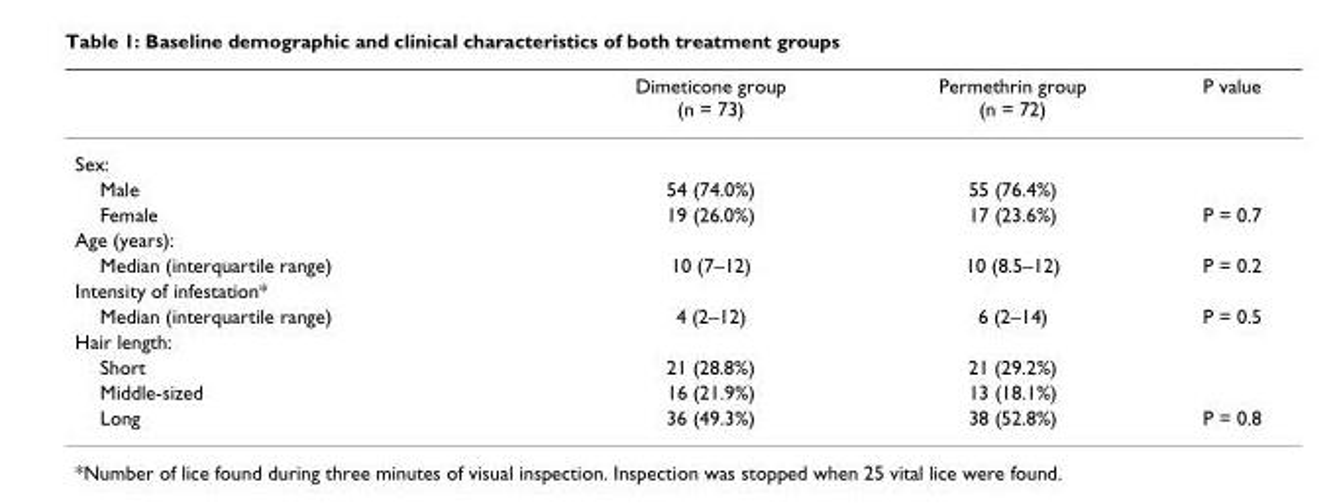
<table><thead><tr><td></td><td>Dimeticone group (n = 73)</td><td>Permethrin group (n = 72)</td><td>P value</td></tr></thead><tbody><tr><td colspan="4">Sex:</td></tr><tr><td>Male</td><td>54 (74.0%)</td><td>55 (76.4%)</td><td></td></tr><tr><td>Female</td><td>19 (26.0%)</td><td>17 (23.6%)</td><td>P = 0.7</td></tr><tr><td colspan="4">Age (years):</td></tr><tr><td>Median (interquartile range)</td><td>10 (7–12)</td><td>10 (8.5–12)</td><td>P = 0.2</td></tr><tr><td colspan="4">Intensity of infestation*</td></tr><tr><td>Median (interquartile range)</td><td>4 (2–12)</td><td>6 (2–14)</td><td>P = 0.5</td></tr><tr><td colspan="4">Hair length:</td></tr><tr><td>Short</td><td>21 (28.8%)</td><td>21 (29.2%)</td><td></td></tr><tr><td>Middle-sized</td><td>16 (21.9%)</td><td>13 (18.1%)</td><td></td></tr><tr><td>Long</td><td>36 (49.3%)</td><td>38 (52.8%)</td><td>P = 0.8</td></tr></tbody></table>